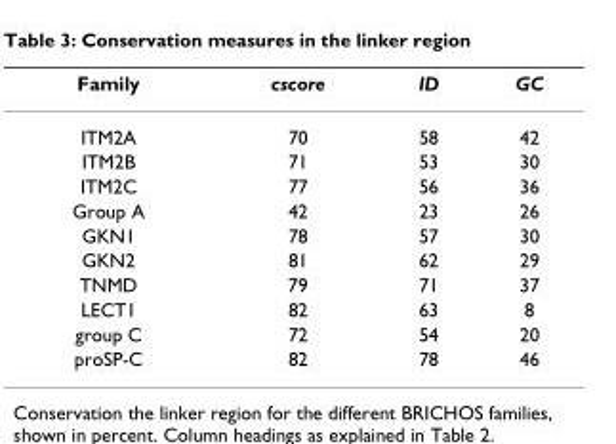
<table><thead><tr><td>Family</td><td>cscore</td><td>ID</td><td>GC</td></tr></thead><tbody><tr><td>ITM2A</td><td>70</td><td>58</td><td>42</td></tr><tr><td>ITM2B</td><td>71</td><td>53</td><td>30</td></tr><tr><td>ITM2C</td><td>77</td><td>56</td><td>36</td></tr><tr><td>Group A</td><td>42</td><td>23</td><td>26</td></tr><tr><td>GKN1</td><td>78</td><td>57</td><td>30</td></tr><tr><td>GKN2</td><td>81</td><td>62</td><td>29</td></tr><tr><td>TNMD</td><td>79</td><td>71</td><td>37</td></tr><tr><td>LECT1</td><td>82</td><td>63</td><td>8</td></tr><tr><td>group C</td><td>72</td><td>54</td><td>20</td></tr><tr><td>proSP-C</td><td>82</td><td>78</td><td>46</td></tr></tbody></table>